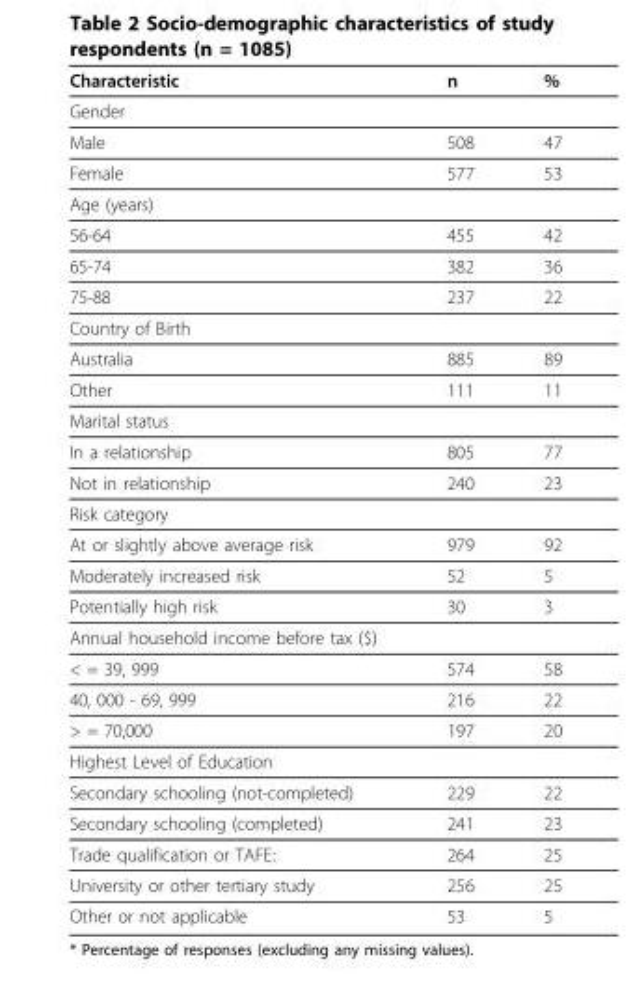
<table><thead><tr><td>Characteristic</td><td>n</td><td>%</td></tr></thead><tbody><tr><td colspan="3">Gender</td></tr><tr><td>Male</td><td>508</td><td>47</td></tr><tr><td>Female</td><td>577</td><td>53</td></tr><tr><td colspan="3">Age (years)</td></tr><tr><td>56-64</td><td>455</td><td>42</td></tr><tr><td>65-74</td><td>382</td><td>36</td></tr><tr><td>75-88</td><td>237</td><td>22</td></tr><tr><td colspan="3">Country of Birth</td></tr><tr><td>Australia</td><td>885</td><td>89</td></tr><tr><td>Other</td><td>111</td><td>11</td></tr><tr><td colspan="3">Marital status</td></tr><tr><td>In a relationship</td><td>805</td><td>77</td></tr><tr><td>Not in relationship</td><td>240</td><td>23</td></tr><tr><td colspan="3">Risk category</td></tr><tr><td>At or slightly above average risk</td><td>979</td><td>92</td></tr><tr><td>Moderately increased risk</td><td>52</td><td>5</td></tr><tr><td>Potentially high risk</td><td>30</td><td>3</td></tr><tr><td colspan="3">Annual household income before tax ($)</td></tr><tr><td>&lt; = 39, 999</td><td>574</td><td>58</td></tr><tr><td>40, 000 - 69, 999</td><td>216</td><td>22</td></tr><tr><td>&gt; = 70,000</td><td>197</td><td>20</td></tr><tr><td colspan="3">Highest Level of Education</td></tr><tr><td>Secondary schooling (not-completed)</td><td>229</td><td>22</td></tr><tr><td>Secondary schooling (completed)</td><td>241</td><td>23</td></tr><tr><td>Trade qualification or TAFE:</td><td>264</td><td>25</td></tr><tr><td>University or other tertiary study</td><td>256</td><td>25</td></tr><tr><td>Other or not applicable</td><td>53</td><td>5</td></tr></tbody></table>